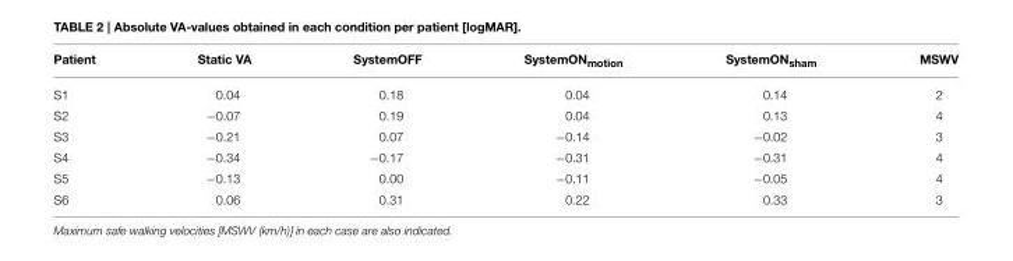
<table><thead><tr><td>Patient</td><td>Static VA</td><td>SystemOFF</td><td>SystemON<sub>motion</sub></td><td>SystemON<sub>sham</sub></td><td>MSWV</td></tr></thead><tbody><tr><td>S1</td><td>0.04</td><td>0.18</td><td>0.04</td><td>0.14</td><td>2</td></tr><tr><td>S2</td><td>−0.07</td><td>0.19</td><td>0.04</td><td>0.13</td><td>4</td></tr><tr><td>S3</td><td>−0.21</td><td>0.07</td><td>−0.14</td><td>−0.02</td><td>3</td></tr><tr><td>S4</td><td>−0.34</td><td>−0.17</td><td>−0.31</td><td>−0.31</td><td>4</td></tr><tr><td>S5</td><td>−0.13</td><td>0.00</td><td>−0.11</td><td>−0.05</td><td>4</td></tr><tr><td>S6</td><td>0.06</td><td>0.31</td><td>0.22</td><td>0.33</td><td>3</td></tr></tbody></table>